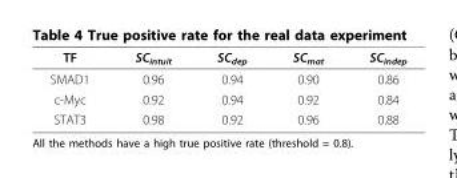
<table><thead><tr><td>TF</td><td>SC<sub>intuit</sub></td><td>SC<sub>dep</sub></td><td>SC<sub>mat</sub></td><td>SC<sub>indep</sub></td></tr></thead><tbody><tr><td>SMAD1</td><td>0.96</td><td>0.94</td><td>0.90</td><td>0.86</td></tr><tr><td>c-Myc</td><td>0.92</td><td>0.94</td><td>0.92</td><td>0.84</td></tr><tr><td>STAT3</td><td>0.98</td><td>0.92</td><td>0.96</td><td>0.88</td></tr></tbody></table>